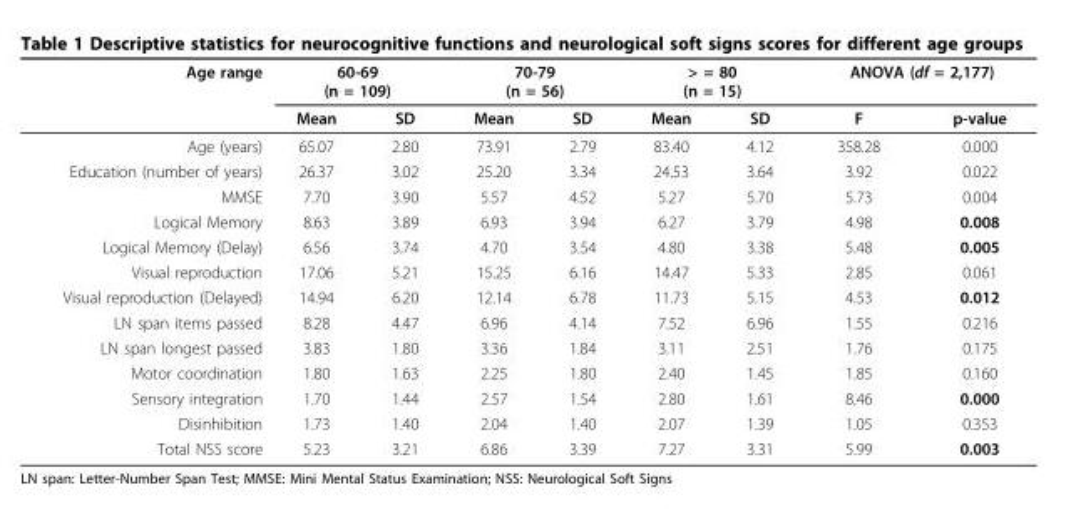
<table><thead><tr><td rowspan="2">Age range</td><td colspan="2">60-69 (n = 109)</td><td colspan="2">70-79 (n = 56)</td><td colspan="2">&gt; = 80 (n = 15)</td><td colspan="2">ANOVA (df = 2,177)</td></tr><tr><td>Mean</td><td>SD</td><td>Mean</td><td>SD</td><td>Mean</td><td>SD</td><td>F</td><td>p-value</td></tr></thead><tbody><tr><td>Age (years)</td><td>65.07</td><td>2.80</td><td>73.91</td><td>2.79</td><td>83.40</td><td>4.12</td><td>358.28</td><td>0.000</td></tr><tr><td>Education (number of years)</td><td>26.37</td><td>3.02</td><td>25.20</td><td>3.34</td><td>24.53</td><td>3.64</td><td>3.92</td><td>0.022</td></tr><tr><td>MMSE</td><td>7.70</td><td>3.90</td><td>5.57</td><td>4.52</td><td>5.27</td><td>5.70</td><td>5.73</td><td>0.004</td></tr><tr><td>Logical Memory</td><td>8.63</td><td>3.89</td><td>6.93</td><td>3.94</td><td>6.27</td><td>3.79</td><td>4.98</td><td>0.008</td></tr><tr><td>Logical Memory (Delay)</td><td>6.56</td><td>3.74</td><td>4.70</td><td>3.54</td><td>4.80</td><td>3.38</td><td>5.48</td><td>0.005</td></tr><tr><td>Visual reproduction</td><td>17.06</td><td>5.21</td><td>15.25</td><td>6.16</td><td>14.47</td><td>5.33</td><td>2.85</td><td>0.061</td></tr><tr><td>Visual reproduction (Delayed)</td><td>14.94</td><td>6.20</td><td>12.14</td><td>6.78</td><td>11.73</td><td>5.15</td><td>4.53</td><td>0.012</td></tr><tr><td>LN span items passed</td><td>8.28</td><td>4.47</td><td>6.96</td><td>4.14</td><td>7.52</td><td>6.96</td><td>1.55</td><td>0.216</td></tr><tr><td>LN span longest passed</td><td>3.83</td><td>1.80</td><td>3.36</td><td>1.84</td><td>3.11</td><td>2.51</td><td>1.76</td><td>0.175</td></tr><tr><td>Motor coordination</td><td>1.80</td><td>1.63</td><td>2.25</td><td>1.80</td><td>2.40</td><td>1.45</td><td>1.85</td><td>0.160</td></tr><tr><td>Sensory integration</td><td>1.70</td><td>1.44</td><td>2.57</td><td>1.54</td><td>2.80</td><td>1.61</td><td>8.46</td><td>0.000</td></tr><tr><td>Disinhibition</td><td>1.73</td><td>1.40</td><td>2.04</td><td>1.40</td><td>2.07</td><td>1.39</td><td>1.05</td><td>0.353</td></tr><tr><td>Total NSS score</td><td>5.23</td><td>3.21</td><td>6.86</td><td>3.39</td><td>7.27</td><td>3.31</td><td>5.99</td><td>0.003</td></tr></tbody></table>